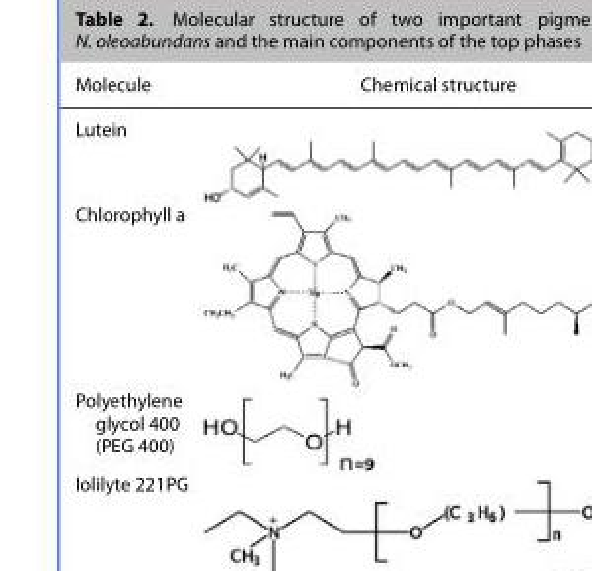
<table><thead><tr><td>Molecule</td><td>Chemical structure</td></tr></thead><tbody><tr><td colspan="2">Lutein</td></tr><tr><td colspan="2">Chlorophyll a</td></tr><tr><td colspan="2">Polyethylene glycol 400 (PEG 400)</td></tr><tr><td>Iolilyte 221PG</td><td></td></tr></tbody></table>